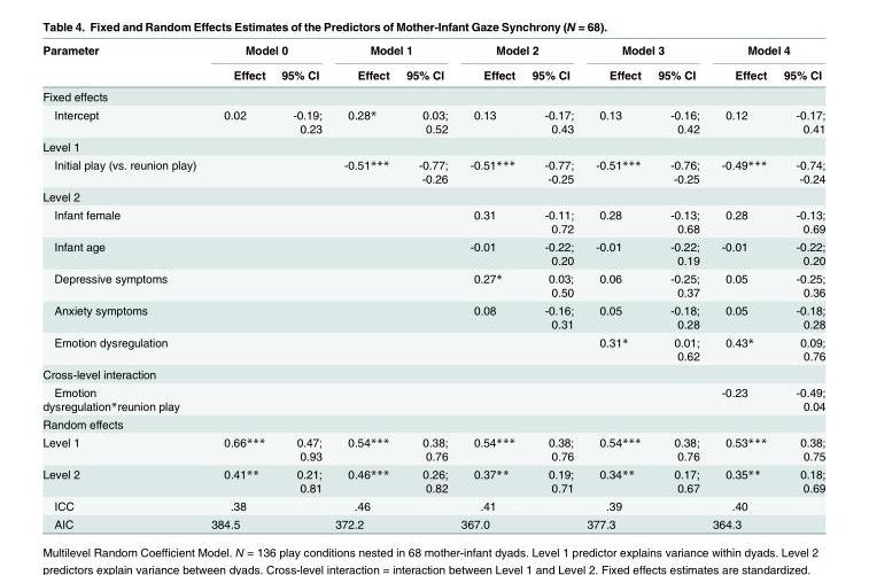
<table><thead><tr><td rowspan="2">Parameter</td><td colspan="2">Model 0</td><td colspan="2">Model 1</td><td colspan="2">Model 2</td><td colspan="2">Model 3</td><td colspan="2">Model 4</td></tr><tr><td>Effect</td><td>95% CI</td><td>Effect</td><td>95% CI</td><td>Effect</td><td>95% CI</td><td>Effect</td><td>95% CI</td><td>Effect</td><td>95% CI</td></tr></thead><tbody><tr><td colspan="11">Fixed effects</td></tr><tr><td>Intercept</td><td>0.02</td><td>-0.19; 0.23</td><td>0.28*</td><td>0.03; 0.52</td><td>0.13</td><td>-0.17; 0.43</td><td>0.13</td><td>-0.16; 0.42</td><td>0.12</td><td>-0.17; 0.41</td></tr><tr><td colspan="11">Level 1</td></tr><tr><td>Initial play (vs. reunion play)</td><td></td><td></td><td>-0.51***</td><td>-0.77; -0.26</td><td>-0.51***</td><td>-0.77; -0.25</td><td>-0.51***</td><td>-0.76; -0.25</td><td>-0.49***</td><td>-0.74; -0.24</td></tr><tr><td colspan="11">Level 2</td></tr><tr><td>Infant female</td><td></td><td></td><td></td><td></td><td>0.31</td><td>-0.11; 0.72</td><td>0.28</td><td>-0.13; 0.68</td><td>0.28</td><td>-0.13; 0.69</td></tr><tr><td>Infant age</td><td></td><td></td><td></td><td></td><td>-0.01</td><td>-0.22; 0.20</td><td>-0.01</td><td>-0.22; 0.19</td><td>-0.01</td><td>-0.22; 0.20</td></tr><tr><td>Depressive symptoms</td><td></td><td></td><td></td><td></td><td>0.27*</td><td>0.03; 0.50</td><td>0.06</td><td>-0.25; 0.37</td><td>0.05</td><td>-0.25; 0.36</td></tr><tr><td>Anxiety symptoms</td><td></td><td></td><td></td><td></td><td>0.08</td><td>-0.16; 0.31</td><td>0.05</td><td>-0.18; 0.28</td><td>0.05</td><td>-0.18; 0.28</td></tr><tr><td>Emotion dysregulation</td><td></td><td></td><td></td><td></td><td></td><td></td><td>0.31*</td><td>0.01; 0.62</td><td>0.43*</td><td>0.09; 0.76</td></tr><tr><td colspan="11">Cross-level interaction</td></tr><tr><td>Emotion dysregulation*reunion play</td><td></td><td></td><td></td><td></td><td></td><td></td><td></td><td></td><td>-0.23</td><td>-0.49; 0.04</td></tr><tr><td colspan="11">Random effects</td></tr><tr><td>Level 1</td><td>0.66***</td><td>0.47; 0.93</td><td>0.54***</td><td>0.38; 0.76</td><td>0.54***</td><td>0.38; 0.76</td><td>0.54***</td><td>0.38; 0.76</td><td>0.53***</td><td>0.38; 0.75</td></tr><tr><td>Level 2</td><td>0.41**</td><td>0.21; 0.81</td><td>0.46***</td><td>0.26; 0.82</td><td>0.37**</td><td>0.19; 0.71</td><td>0.34**</td><td>0.17; 0.67</td><td>0.35**</td><td>0.18; 0.69</td></tr><tr><td>ICC</td><td>.38</td><td></td><td>.46</td><td></td><td>.41</td><td></td><td>.39</td><td></td><td>.40</td><td></td></tr><tr><td>AIC</td><td>384.5</td><td></td><td>372.2</td><td></td><td>367.0</td><td></td><td>377.3</td><td></td><td>364.3</td><td></td></tr></tbody></table>